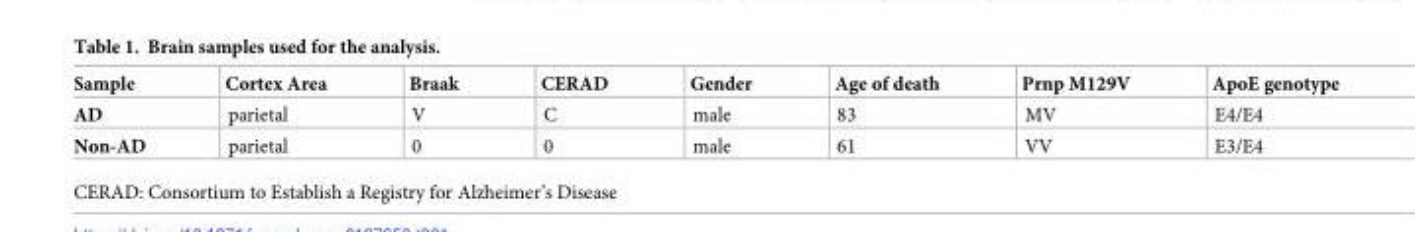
<table><thead><tr><td>Sample</td><td>Cortex Area</td><td>Braak</td><td>CERAD</td><td>Gender</td><td>Age of death</td><td>Prnp M129V</td><td>ApoE genotype</td></tr></thead><tbody><tr><td>AD</td><td>parietal</td><td>V</td><td>C</td><td>male</td><td>83</td><td>MV</td><td>E4/E4</td></tr><tr><td>Non-AD</td><td>parietal</td><td>0</td><td>0</td><td>male</td><td>61</td><td>VV</td><td>E3/E4</td></tr></tbody></table>